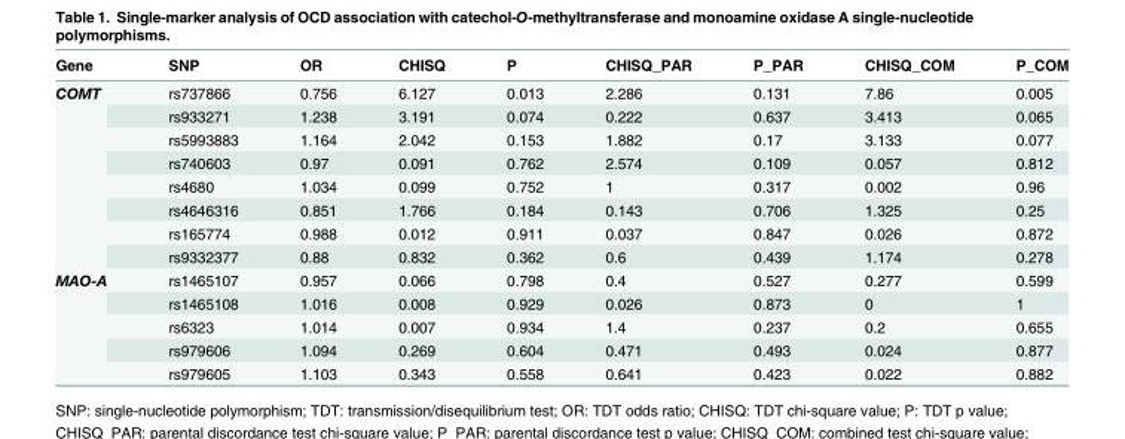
<table><thead><tr><td>Gene</td><td>SNP</td><td>OR</td><td>CHISQ</td><td>P</td><td>CHISQ_PAR</td><td>P_PAR</td><td>CHISQ_COM</td><td>P_COM</td></tr></thead><tbody><tr><td rowspan="8">COMT</td><td>rs737866</td><td>0.756</td><td>6.127</td><td>0.013</td><td>2.286</td><td>0.131</td><td>7.86</td><td>0.005</td></tr><tr><td>rs933271</td><td>1.238</td><td>3.191</td><td>0.074</td><td>0.222</td><td>0.637</td><td>3.413</td><td>0.065</td></tr><tr><td>rs5993883</td><td>1.164</td><td>2.042</td><td>0.153</td><td>1.882</td><td>0.17</td><td>3.133</td><td>0.077</td></tr><tr><td>rs740603</td><td>0.97</td><td>0.091</td><td>0.762</td><td>2.574</td><td>0.109</td><td>0.057</td><td>0.812</td></tr><tr><td>rs4680</td><td>1.034</td><td>0.099</td><td>0.752</td><td>1</td><td>0.317</td><td>0.002</td><td>0.96</td></tr><tr><td>rs4646316</td><td>0.851</td><td>1.766</td><td>0.184</td><td>0.143</td><td>0.706</td><td>1.325</td><td>0.25</td></tr><tr><td>rs165774</td><td>0.988</td><td>0.012</td><td>0.911</td><td>0.037</td><td>0.847</td><td>0.026</td><td>0.872</td></tr><tr><td>rs9332377</td><td>0.88</td><td>0.832</td><td>0.362</td><td>0.6</td><td>0.439</td><td>1.174</td><td>0.278</td></tr><tr><td rowspan="5">MAO-A</td><td>rs1465107</td><td>0.957</td><td>0.066</td><td>0.798</td><td>0.4</td><td>0.527</td><td>0.277</td><td>0.599</td></tr><tr><td>rs1465108</td><td>1.016</td><td>0.008</td><td>0.929</td><td>0.026</td><td>0.873</td><td>0</td><td>1</td></tr><tr><td>rs6323</td><td>1.014</td><td>0.007</td><td>0.934</td><td>1.4</td><td>0.237</td><td>0.2</td><td>0.655</td></tr><tr><td>rs979606</td><td>1.094</td><td>0.269</td><td>0.604</td><td>0.471</td><td>0.493</td><td>0.024</td><td>0.877</td></tr><tr><td>rs979605</td><td>1.103</td><td>0.343</td><td>0.558</td><td>0.641</td><td>0.423</td><td>0.022</td><td>0.882</td></tr></tbody></table>